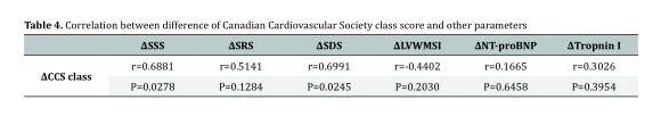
<table><thead><tr><td></td><td>ΔSSS</td><td>ΔSRS</td><td>ΔSDS</td><td>ΔLVWMSI</td><td>ΔNT-proBNP</td><td>ΔTropnin I</td></tr></thead><tbody><tr><td rowspan="2">ΔCCS class</td><td>r=0.6881</td><td>r=0.5141</td><td>r=0.6991</td><td>r=-0.4402</td><td>r=0.1665</td><td>r=0.3026</td></tr><tr><td>P=0.0278</td><td>P=0.1284</td><td>P=0.0245</td><td>P=0.2030</td><td>P=0.6458</td><td>P=0.3954</td></tr></tbody></table>